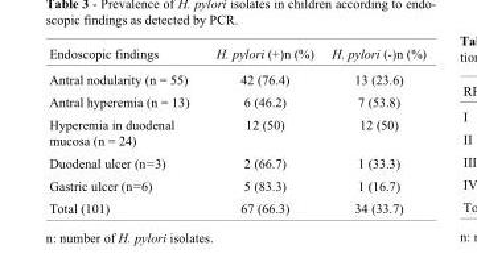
<table><thead><tr><td>Endoscopic findings</td><td>H. pylori (+)n (%)</td><td>H. pylori (-)n (%)</td></tr></thead><tbody><tr><td>Antral nodularity (n = 55)</td><td>42 (76.4)</td><td>13 (23.6)</td></tr><tr><td>Antral hyperemia (n = 13)</td><td>6 (46.2)</td><td>7 (53.8)</td></tr><tr><td>Hyperemia in duodenal mucosa (n = 24)</td><td>12 (50)</td><td>12 (50)</td></tr><tr><td>Duodenal ulcer (n=3)</td><td>2 (66.7)</td><td>1 (33.3)</td></tr><tr><td>Gastric ulcer (n=6)</td><td>5 (83.3)</td><td>1 (16.7)</td></tr><tr><td>Total (101)</td><td>67 (66.3)</td><td>34 (33.7)</td></tr></tbody></table>